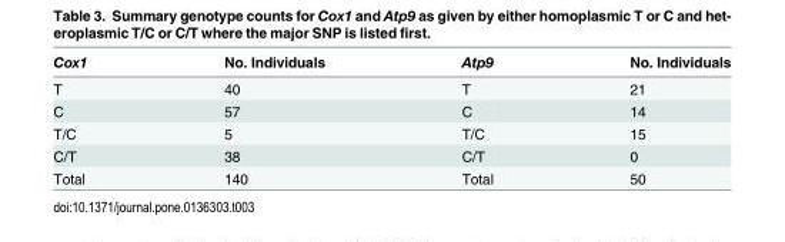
<table><thead><tr><td>Cox1</td><td>No. Individuals</td><td>Atp9</td><td>No. Individuals</td></tr></thead><tbody><tr><td>T</td><td>40</td><td>T</td><td>21</td></tr><tr><td>C</td><td>57</td><td>C</td><td>14</td></tr><tr><td>T/C</td><td>5</td><td>T/C</td><td>15</td></tr><tr><td>C/T</td><td>38</td><td>C/T</td><td>0</td></tr><tr><td>Total</td><td>140</td><td>Total</td><td>50</td></tr></tbody></table>